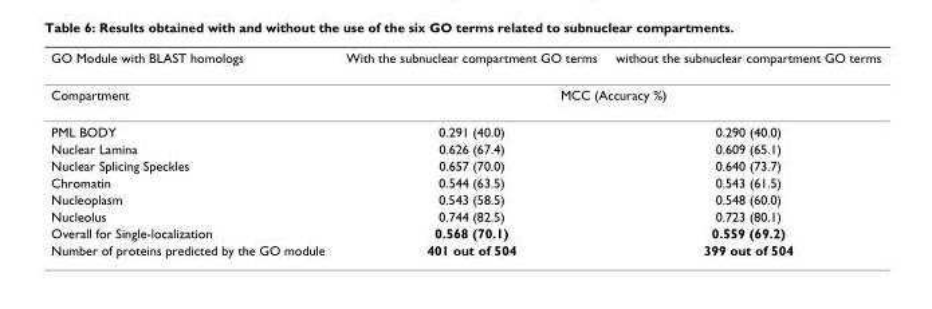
<table><thead><tr><td>GO Module with BLAST homologs</td><td>With the subnuclear compartment GO terms</td><td>without the subnuclear compartment GO terms</td></tr></thead><tbody><tr><td>Compartment</td><td colspan="2">MCC (Accuracy %)</td></tr><tr><td>PML BODY</td><td>0.291 (40.0)</td><td>0.290 (40.0)</td></tr><tr><td>Nuclear Lamina</td><td>0.626 (67.4)</td><td>0.609 (65.1)</td></tr><tr><td>Nuclear Splicing Speckles</td><td>0.657 (70.0)</td><td>0.640 (73.7)</td></tr><tr><td>Chromatin</td><td>0.544 (63.5)</td><td>0.543 (61.5)</td></tr><tr><td>Nucleoplasm</td><td>0.543 (58.5)</td><td>0.548 (60.0)</td></tr><tr><td>Nucleolus</td><td>0.744 (82.5)</td><td>0.723 (80.1)</td></tr><tr><td>Overall for Single-localization</td><td>0.568 (70.1)</td><td>0.559 (69.2)</td></tr><tr><td>Number of proteins predicted by the GO module</td><td>401 out of 504</td><td>399 out of 504</td></tr></tbody></table>